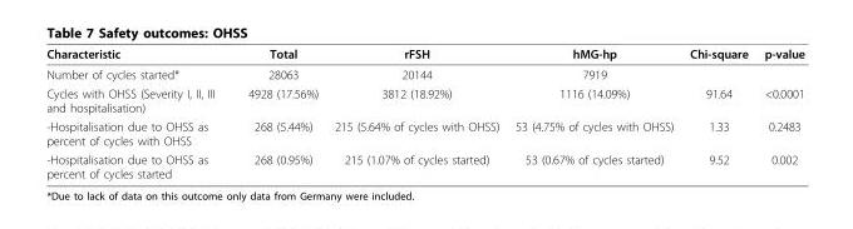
<table><thead><tr><td>Characteristic</td><td>Total</td><td>rFSH</td><td>hMG-hp</td><td>Chi-square</td><td>p-value</td></tr></thead><tbody><tr><td>Number of cycles started*</td><td>28063</td><td>20144</td><td>7919</td><td></td><td></td></tr><tr><td>Cycles with OHSS (Severity I, II, III and hospitalisation)</td><td>4928 (17.56%)</td><td>3812 (18.92%)</td><td>1116 (14.09%)</td><td>91.64</td><td>&lt;0.0001</td></tr><tr><td>-Hospitalisation due to OHSS as percent of cycles with OHSS</td><td>268 (5.44%)</td><td>215 (5.64% of cycles with OHSS)</td><td>53 (4.75% of cycles with OHSS)</td><td>1.33</td><td>0.2483</td></tr><tr><td>-Hospitalisation due to OHSS as percent of cycles started</td><td>268 (0.95%)</td><td>215 (1.07% of cycles started)</td><td>53 (0.67% of cycles started)</td><td>9.52</td><td>0.002</td></tr></tbody></table>